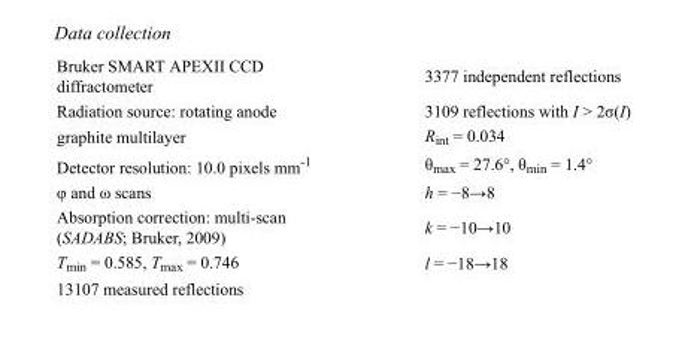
<table><tbody><tr><td>Bruker SMART APEXII CCD diffractometer</td><td>3377 independent reflections</td></tr><tr><td>Radiation source: rotating anode</td><td>3109 reflections with I &gt; 2σ(I)</td></tr><tr><td>graphite multilayer</td><td>R<sub>int</sub> = 0.034</td></tr><tr><td>Detector resolution: 10.0 pixels mm<sup>-1</sup></td><td>θ<sub>max</sub> = 27.6°, θ<sub>min</sub> = 1.4°</td></tr><tr><td>φ and ω scans</td><td>h = −8→8</td></tr><tr><td>Absorption correction: multi-scan (SADABS; Bruker, 2009)</td><td>k = −10→10</td></tr><tr><td>T<sub>min</sub> = 0.585, T<sub>max</sub> = 0.746</td><td>l = −18→18</td></tr><tr><td>13107 measured reflections</td><td></td></tr></tbody></table>